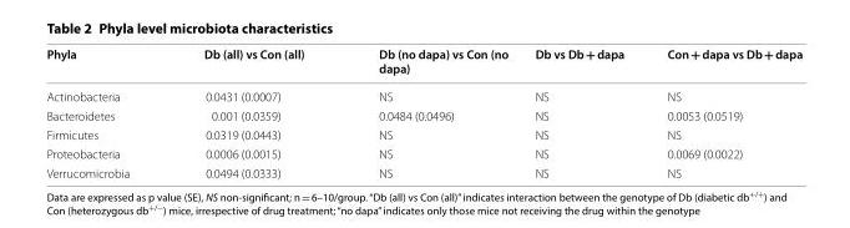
<table><thead><tr><td>Phyla</td><td>Db (all) vs Con (all)</td><td>Db (no dapa) vs Con (no dapa)</td><td>Db vs Db + dapa</td><td>Con + dapa vs Db + dapa</td></tr></thead><tbody><tr><td>Actinobacteria</td><td>0.0431 (0.0007)</td><td>NS</td><td>NS</td><td>NS</td></tr><tr><td>Bacteroidetes</td><td>0.001 (0.0359)</td><td>0.0484 (0.0496)</td><td>NS</td><td>0.0053 (0.0519)</td></tr><tr><td>Firmicutes</td><td>0.0319 (0.0443)</td><td>NS</td><td>NS</td><td>NS</td></tr><tr><td>Proteobacteria</td><td>0.0006 (0.0015)</td><td>NS</td><td>NS</td><td>0.0069 (0.0022)</td></tr><tr><td>Verrucomicrobia</td><td>0.0494 (0.0333)</td><td>NS</td><td>NS</td><td>NS</td></tr></tbody></table>